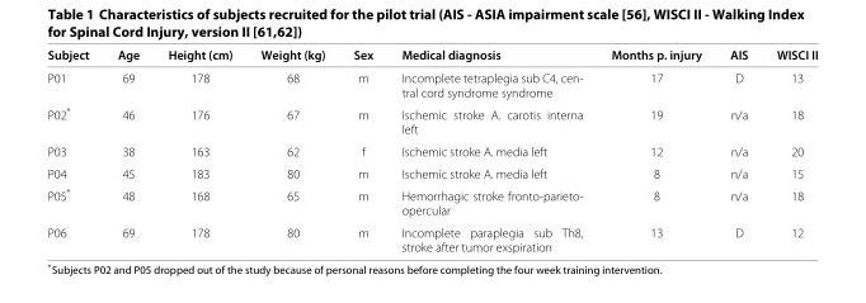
<table><thead><tr><td>Subject</td><td>Age</td><td>Height (cm)</td><td>Weight (kg)</td><td>Sex</td><td>Medical diagnosis</td><td>Months p. injury</td><td>AIS</td><td>WISCI II</td></tr></thead><tbody><tr><td>P01</td><td>69</td><td>178</td><td>68</td><td>m</td><td>Incomplete tetraplegia sub C4, cen- tral cord syndrome syndrome</td><td>17</td><td>D</td><td>13</td></tr><tr><td>P02*</td><td>46</td><td>176</td><td>67</td><td>m</td><td>Ischemic stroke A. carotis interna left</td><td>19</td><td>n/a</td><td>18</td></tr><tr><td>P03</td><td>38</td><td>163</td><td>62</td><td>f</td><td>Ischemic stroke A. media left</td><td>12</td><td>n/a</td><td>20</td></tr><tr><td>P04</td><td>45</td><td>183</td><td>80</td><td>m</td><td>Ischemic stroke A. media left</td><td>8</td><td>n/a</td><td>15</td></tr><tr><td>P05*</td><td>48</td><td>168</td><td>65</td><td>m</td><td>Hemorrhagic stroke fronto-parieto- opercular</td><td>8</td><td>n/a</td><td>18</td></tr><tr><td>P06</td><td>69</td><td>178</td><td>80</td><td>m</td><td>Incomplete paraplegia sub Th8, stroke after tumor exspiration</td><td>13</td><td>D</td><td>12</td></tr></tbody></table>